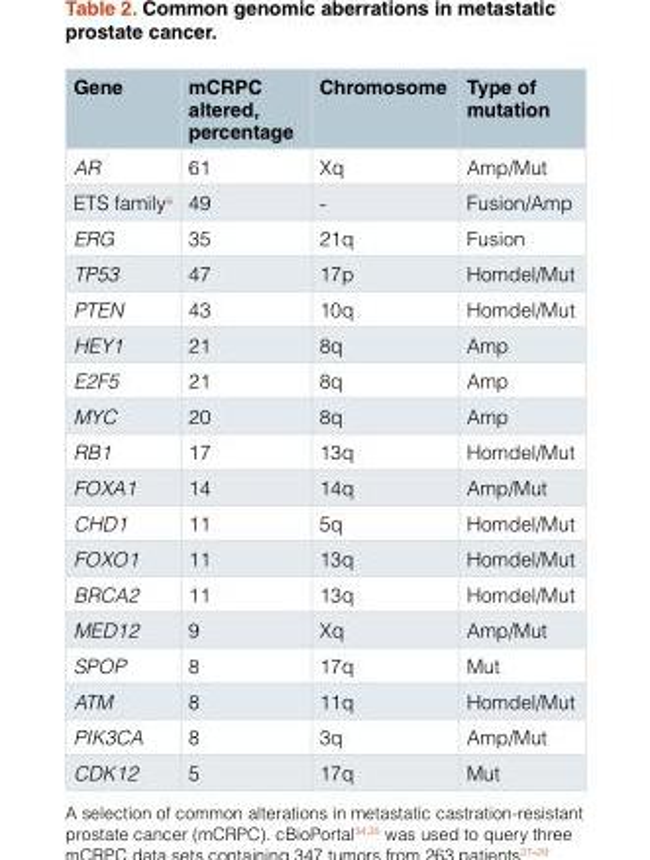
<table><thead><tr><td>Gene</td><td>mCRPC altered, percentage</td><td>Chromosome</td><td>Type of mutation</td></tr></thead><tbody><tr><td>AR</td><td>61</td><td>Xq</td><td>Amp/Mut</td></tr><tr><td>ETS family<sup>a</sup></td><td>49</td><td>-</td><td>Fusion/Amp</td></tr><tr><td>ERG</td><td>35</td><td>21q</td><td>Fusion</td></tr><tr><td>TP53</td><td>47</td><td>17p</td><td>Homdel/Mut</td></tr><tr><td>PTEN</td><td>43</td><td>10q</td><td>Homdel/Mut</td></tr><tr><td>HEY1</td><td>21</td><td>8q</td><td>Amp</td></tr><tr><td>E2F5</td><td>21</td><td>8q</td><td>Amp</td></tr><tr><td>MYC</td><td>20</td><td>8q</td><td>Amp</td></tr><tr><td>RB1</td><td>17</td><td>13q</td><td>Homdel/Mut</td></tr><tr><td>FOXA1</td><td>14</td><td>14q</td><td>Amp/Mut</td></tr><tr><td>CHD1</td><td>11</td><td>5q</td><td>Homdel/Mut</td></tr><tr><td>FOXO1</td><td>11</td><td>13q</td><td>Homdel/Mut</td></tr><tr><td>BRCA2</td><td>11</td><td>13q</td><td>Homdel/Mut</td></tr><tr><td>MED12</td><td>9</td><td>Xq</td><td>Amp/Mut</td></tr><tr><td>SPOP</td><td>8</td><td>17q</td><td>Mut</td></tr><tr><td>ATM</td><td>8</td><td>11q</td><td>Homdel/Mut</td></tr><tr><td>PIK3CA</td><td>8</td><td>3q</td><td>Amp/Mut</td></tr><tr><td>CDK12</td><td>5</td><td>17q</td><td>Mut</td></tr></tbody></table>